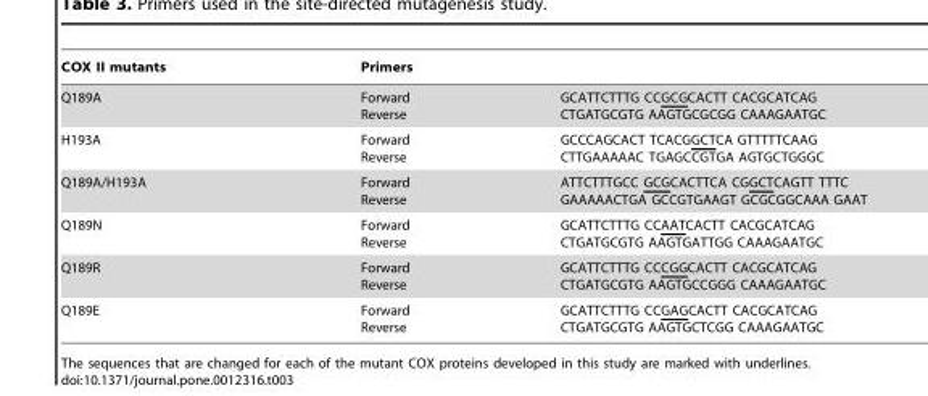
<table><thead><tr><td rowspan="2">COX II mutants Q189A</td><td colspan="2">Primers</td></tr><tr><td>Forward Reverse</td><td>GCATTCTTTG CCGCGCACTT CACGCATCAG CTGATGCGTG AAGTGCGCGG CAAAGAATGC</td></tr></thead><tbody><tr><td>H193A</td><td>Forward Reverse</td><td>GCCCAGCACT TCACGGCTCA GTTTTTCAAG CTTGAAAAAC TGAGCCGTGA AGTGCTGGGC</td></tr><tr><td>Q189A/H193A</td><td>Forward Reverse</td><td>ATTCTTTGCC GCGCACTTCA CGGCTCAGTT TTTC GAAAAACTGA GCCGTGAAGT GCGCGGCAAA GAAT</td></tr><tr><td>Q189N</td><td>Forward Reverse</td><td>GCATTCTTTG CCAATCACTT CACGCATCAG CTGATGCGTG AAGTGATTGG CAAAGAATGC</td></tr><tr><td>Q189R</td><td>Forward Reverse</td><td>GCATTCTTTG CCCGGCACTT CACGCATCAG CTGATGCGTG AAGTGCCGGG CAAAGAATGC</td></tr><tr><td>Q189E</td><td>Forward Reverse</td><td>GCATTCTTTG CCGAGCACTT CACGCATCAG CTGATGCGTG AAGTGCTCGG CAAAGAATGC</td></tr></tbody></table>